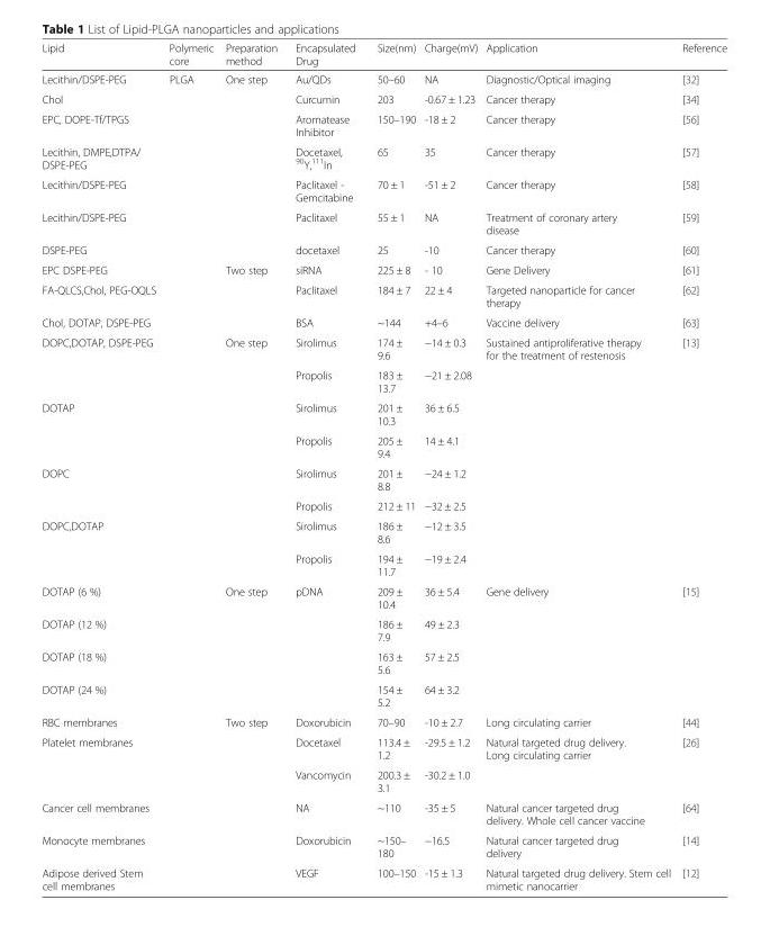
<table><thead><tr><td>Lipid</td><td>Polymeric core</td><td>Preparation method</td><td>Encapsulated Drug</td><td>Size(nm)</td><td>Charge(mV)</td><td>Application</td><td>Reference</td></tr></thead><tbody><tr><td>Lecithin/DSPE-PEG</td><td rowspan="28">PLGA</td><td rowspan="7">One step</td><td>Au/QDs</td><td>50–60</td><td>NA</td><td>Diagnostic/Optical imaging</td><td>[32]</td></tr><tr><td>Chol</td><td>Curcumin</td><td>203</td><td>-0.67 ± 1.23</td><td>Cancer therapy</td><td>[34]</td></tr><tr><td>EPC, DOPE-Tf/TPGS</td><td>Aromatease Inhibitor</td><td>150–190</td><td>-18 ± 2</td><td>Cancer therapy</td><td>[56]</td></tr><tr><td>Lecithin, DMPE,DTPA/ DSPE-PEG</td><td>Docetaxel, <sup>90</sup>Y,<sup>111</sup>In</td><td>65</td><td>35</td><td>Cancer therapy</td><td>[57]</td></tr><tr><td>Lecithin/DSPE-PEG</td><td>Paclitaxel - Gemcitabine</td><td>70 ± 1</td><td>-51 ± 2</td><td>Cancer therapy</td><td>[58]</td></tr><tr><td>Lecithin/DSPE-PEG</td><td>Paclitaxel</td><td>55 ± 1</td><td>NA</td><td>Treatment of coronary artery disease</td><td>[59]</td></tr><tr><td>DSPE-PEG</td><td>docetaxel</td><td>25</td><td>-10</td><td>Cancer therapy</td><td>[60]</td></tr><tr><td>EPC DSPE-PEG</td><td rowspan="3">Two step</td><td>siRNA</td><td>225 ± 8</td><td>- 10</td><td>Gene Delivery</td><td>[61]</td></tr><tr><td>FA-QLCS,Chol, PEG-OQLS</td><td>Paclitaxel</td><td>184 ± 7</td><td>22 ± 4</td><td>Targeted nanoparticle for cancer therapy</td><td>[62]</td></tr><tr><td>Chol, DOTAP, DSPE-PEG</td><td>BSA</td><td>~144</td><td>+4–6</td><td>Vaccine delivery</td><td>[63]</td></tr><tr><td rowspan="2">DOPC,DOTAP, DSPE-PEG</td><td rowspan="8">One step</td><td>Sirolimus</td><td>174 ± 9.6</td><td>−14 ± 0.3</td><td rowspan="8">Sustained antiproliferative therapy for the treatment of restenosis</td><td rowspan="8">[13]</td></tr><tr><td>Propolis</td><td>183 ± 13.7</td><td>−21 ± 2.08</td></tr><tr><td rowspan="2">DOTAP</td><td>Sirolimus</td><td>201 ± 10.3</td><td>36 ± 6.5</td></tr><tr><td>Propolis</td><td>205 ± 9.4</td><td>14 ± 4.1</td></tr><tr><td rowspan="2">DOPC</td><td>Sirolimus</td><td>201 ± 8.8</td><td>−24 ± 1.2</td></tr><tr><td>Propolis</td><td>212 ± 11</td><td>−32 ± 2.5</td></tr><tr><td rowspan="2">DOPC,DOTAP</td><td>Sirolimus</td><td>186 ± 8.6</td><td>−12 ± 3.5</td></tr><tr><td>Propolis</td><td>194 ± 11.7</td><td>−19 ± 2.4</td></tr><tr><td>DOTAP (6 %)</td><td rowspan="4">One step</td><td rowspan="4">pDNA</td><td>209 ± 10.4</td><td>36 ± 5.4</td><td rowspan="4">Gene delivery</td><td rowspan="4">[15]</td></tr><tr><td>DOTAP (12 %)</td><td>186 ± 7.9</td><td>49 ± 2.3</td></tr><tr><td>DOTAP (18 %)</td><td>163 ± 5.6</td><td>57 ± 2.5</td></tr><tr><td>DOTAP (24 %)</td><td>154 ± 5.2</td><td>64 ± 3.2</td></tr><tr><td>RBC membranes</td><td rowspan="6">Two step</td><td>Doxorubicin</td><td>70–90</td><td>-10 ± 2.7</td><td>Long circulating carrier</td><td>[44]</td></tr><tr><td rowspan="2">Platelet membranes</td><td>Docetaxel</td><td>113.4 ± 1.2</td><td>-29.5 ± 1.2</td><td rowspan="2">Natural targeted drug delivery. Long circulating carrier</td><td rowspan="2">[26]</td></tr><tr><td>Vancomycin</td><td>200.3 ± 3.1</td><td>-30.2 ± 1.0</td></tr><tr><td>Cancer cell membranes</td><td>NA</td><td>~110</td><td>-35 ± 5</td><td>Natural cancer targeted drug delivery. Whole cell cancer vaccine</td><td>[64]</td></tr><tr><td>Monocyte membranes</td><td>Doxorubicin</td><td>~150– 180</td><td>−16.5</td><td>Natural cancer targeted drug delivery</td><td>[14]</td></tr><tr><td>Adipose derived Stem cell membranes</td><td>VEGF</td><td>100–150</td><td>-15 ± 1.3</td><td>Natural targeted drug delivery. Stem cell mimetic nanocarrier</td><td>[12]</td></tr></tbody></table>